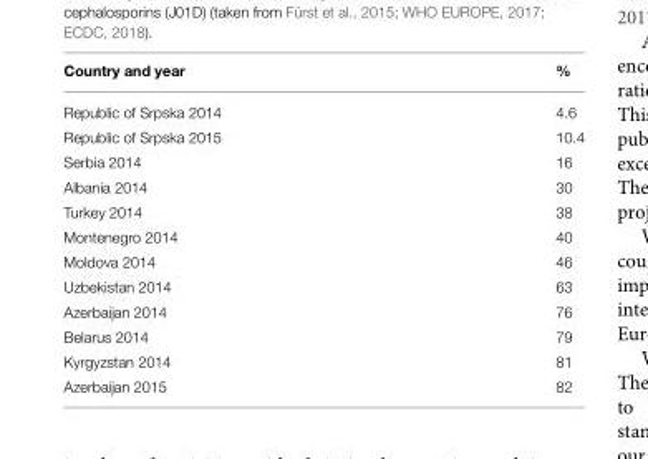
<table><thead><tr><td>Country and year</td><td>%</td></tr></thead><tbody><tr><td>Republic of Srpska 2014</td><td>4.6</td></tr><tr><td>Republic of Srpska 2015</td><td>10.4</td></tr><tr><td>Serbia 2014</td><td>16</td></tr><tr><td>Albania 2014</td><td>30</td></tr><tr><td>Turkey 2014</td><td>38</td></tr><tr><td>Montenegro 2014</td><td>40</td></tr><tr><td>Moldova 2014</td><td>46</td></tr><tr><td>Uzbekistan 2014</td><td>63</td></tr><tr><td>Azerbaijan 2014</td><td>76</td></tr><tr><td>Belarus 2014</td><td>79</td></tr><tr><td>Kyrgyzstan 2014</td><td>81</td></tr><tr><td>Azerbaijan 2015</td><td>82</td></tr></tbody></table>